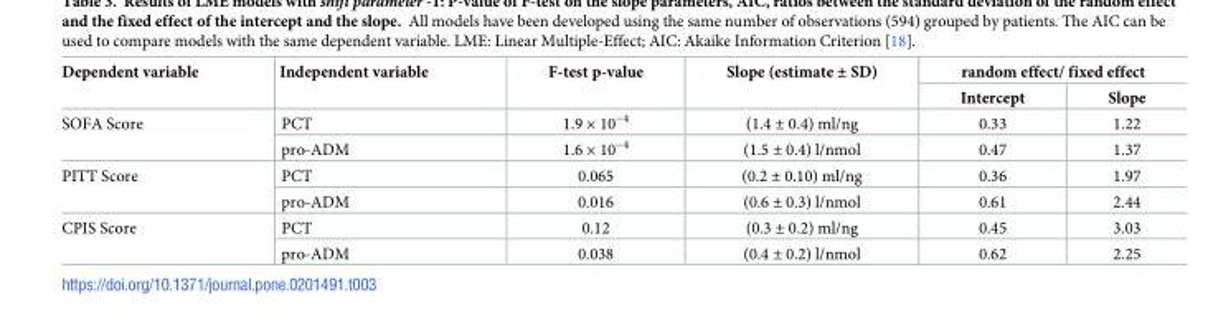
<table><thead><tr><td rowspan="2">Dependent variable</td><td rowspan="2">Independent variable</td><td rowspan="2">F-test p-value</td><td rowspan="2">Slope (estimate ± SD)</td><td colspan="2">random effect/ fixed effect</td></tr><tr><td>Intercept</td><td>Slope</td></tr></thead><tbody><tr><td rowspan="2">SOFA Score</td><td>PCT</td><td>1.9 × 10<sup>−4</sup></td><td>(1.4 ± 0.4) ml/ng</td><td>0.33</td><td>1.22</td></tr><tr><td>pro-ADM</td><td>1.6 × 10<sup>−4</sup></td><td>(1.5 ± 0.4) l/nmol</td><td>0.47</td><td>1.37</td></tr><tr><td rowspan="2">PITT Score</td><td>PCT</td><td>0.065</td><td>(0.2 ± 0.10) ml/ng</td><td>0.36</td><td>1.97</td></tr><tr><td>pro-ADM</td><td>0.016</td><td>(0.6 ± 0.3) l/nmol</td><td>0.61</td><td>2.44</td></tr><tr><td rowspan="2">CPIS Score</td><td>PCT</td><td>0.12</td><td>(0.3 ± 0.2) ml/ng</td><td>0.45</td><td>3.03</td></tr><tr><td>pro-ADM</td><td>0.038</td><td>(0.4 ± 0.2) l/nmol</td><td>0.62</td><td>2.25</td></tr></tbody></table>